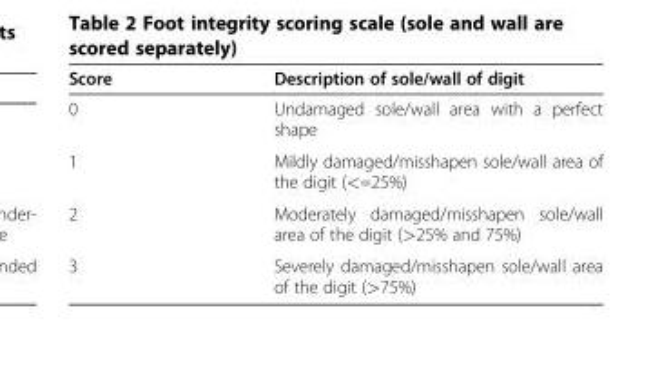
<table><thead><tr><td>Score</td><td>Description of sole/wall of digit</td></tr></thead><tbody><tr><td>0</td><td>Undamaged sole/wall area with a perfect shape</td></tr><tr><td>1</td><td>Mildly damaged/misshapen sole/wall area of the digit (&lt;=25%)</td></tr><tr><td>2</td><td>Moderately damaged/misshapen sole/wall area of the digit (&gt;25% and 75%)</td></tr><tr><td>3</td><td>Severely damaged/misshapen sole/wall area of the digit (&gt;75%)</td></tr></tbody></table>